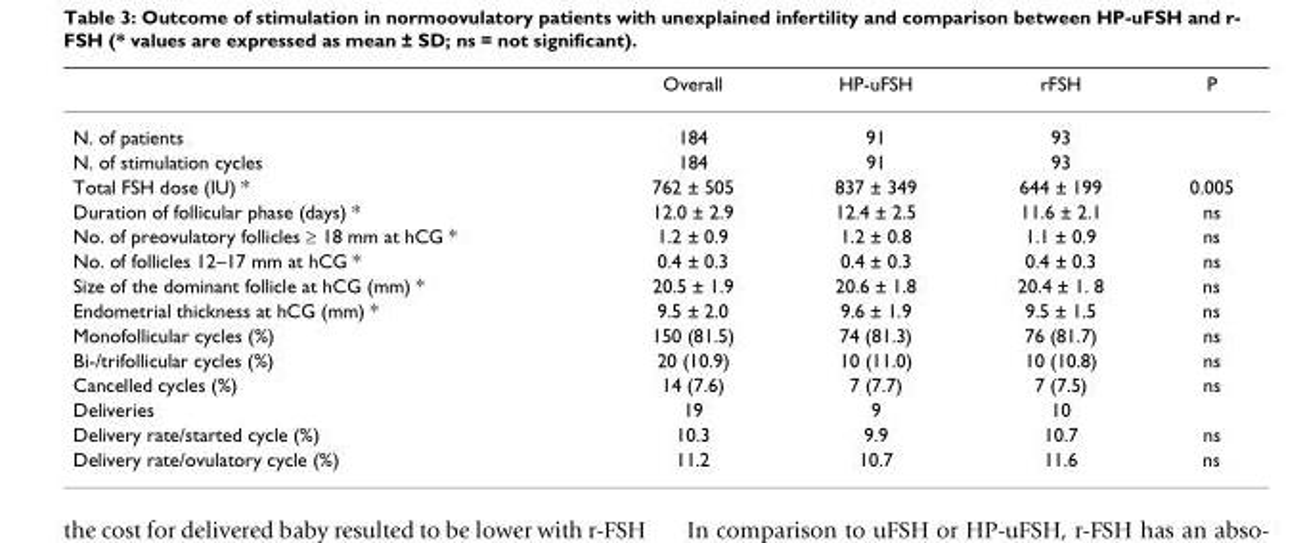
<table><thead><tr><td></td><td>Overall</td><td>HP-uFSH</td><td>rFSH</td><td>P</td></tr></thead><tbody><tr><td>N. of patients</td><td>184</td><td>91</td><td>93</td><td></td></tr><tr><td>N. of stimulation cycles</td><td>184</td><td>91</td><td>93</td><td></td></tr><tr><td>Total FSH dose (IU) *</td><td>762 ± 505</td><td>837 ± 349</td><td>644 ± 199</td><td>0.005</td></tr><tr><td>Duration of follicular phase (days) *</td><td>12.0 ± 2.9</td><td>12.4 ± 2.5</td><td>11.6 ± 2.1</td><td>ns</td></tr><tr><td>No. of preovulatory follicles ≥ 18 mm at hCG *</td><td>1.2 ± 0.9</td><td>1.2 ± 0.8</td><td>1.1 ± 0.9</td><td>ns</td></tr><tr><td>No. of follicles 12–17 mm at hCG *</td><td>0.4 ± 0.3</td><td>0.4 ± 0.3</td><td>0.4 ± 0.3</td><td>ns</td></tr><tr><td>Size of the dominant follicle at hCG (mm) *</td><td>20.5 ± 1.9</td><td>20.6 ± 1.8</td><td>20.4 ± 1. 8</td><td>ns</td></tr><tr><td>Endometrial thickness at hCG (mm) *</td><td>9.5 ± 2.0</td><td>9.6 ± 1.9</td><td>9.5 ± 1.5</td><td>ns</td></tr><tr><td>Monofollicular cycles (%)</td><td>150 (81.5)</td><td>74 (81.3)</td><td>76 (81.7)</td><td>ns</td></tr><tr><td>Bi-/trifollicular cycles (%)</td><td>20 (10.9)</td><td>10 (11.0)</td><td>10 (10.8)</td><td>ns</td></tr><tr><td>Cancelled cycles (%)</td><td>14 (7.6)</td><td>7 (7.7)</td><td>7 (7.5)</td><td>ns</td></tr><tr><td>Deliveries</td><td>19</td><td>9</td><td>10</td><td></td></tr><tr><td>Delivery rate/started cycle (%)</td><td>10.3</td><td>9.9</td><td>10.7</td><td>ns</td></tr><tr><td>Delivery rate/ovulatory cycle (%)</td><td>11.2</td><td>10.7</td><td>11.6</td><td>ns</td></tr></tbody></table>